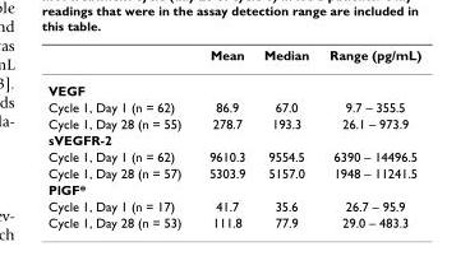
<table><thead><tr><td></td><td>Mean</td><td>Median</td><td>Range (pg/mL)</td></tr></thead><tbody><tr><td colspan="4">VEGF</td></tr><tr><td>Cycle 1, Day 1 (n = 62)</td><td>86.9</td><td>67.0</td><td>9.7 – 355.5</td></tr><tr><td>Cycle 1, Day 28 (n = 55)</td><td>278.7</td><td>193.3</td><td>26.1 – 973.9</td></tr><tr><td colspan="4">sVEGFR-2</td></tr><tr><td>Cycle 1, Day 1 (n = 62)</td><td>9610.3</td><td>9554.5</td><td>6390 – 14496.5</td></tr><tr><td>Cycle 1, Day 28 (n = 57)</td><td>5303.9</td><td>5157.0</td><td>1948 – 11241.5</td></tr><tr><td colspan="4">PlGF*</td></tr><tr><td>Cycle 1, Day 1 (n = 17)</td><td>41.7</td><td>35.6</td><td>26.7 – 95.9</td></tr><tr><td>Cycle 1, Day 28 (n = 53)</td><td>111.8</td><td>77.9</td><td>29.0 – 483.3</td></tr></tbody></table>